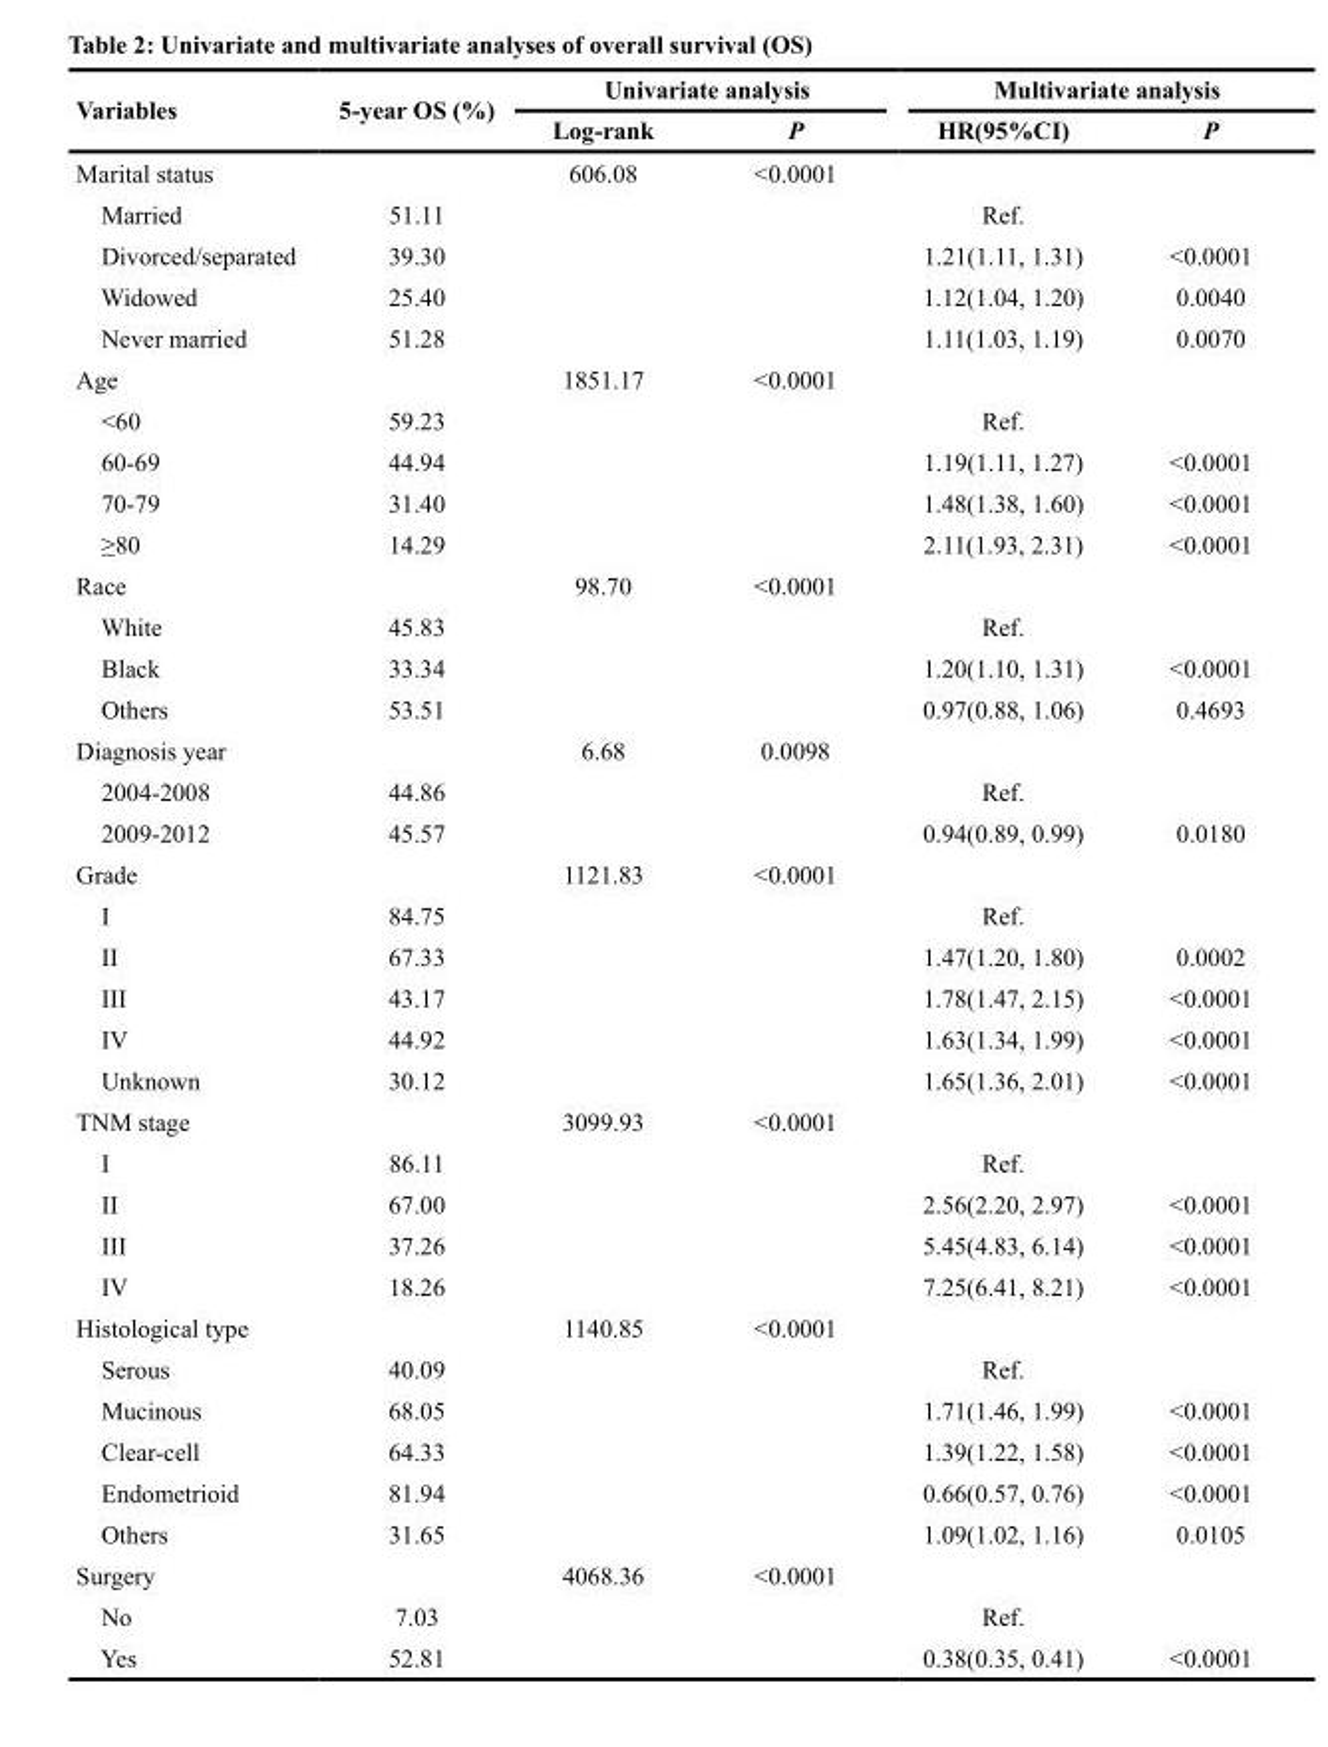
<table><thead><tr><td rowspan="2">Variables</td><td rowspan="2">5-year OS (%)</td><td colspan="2">Univariate analysis</td><td colspan="2">Multivariate analysis</td></tr><tr><td>Log-rank</td><td>P</td><td>HR(95%CI)</td><td>P</td></tr></thead><tbody><tr><td>Marital status</td><td></td><td>606.08</td><td>&lt;0.0001</td><td></td><td></td></tr><tr><td>Married</td><td>51.11</td><td></td><td></td><td>Ref.</td><td></td></tr><tr><td>Divorced/separated</td><td>39.30</td><td></td><td></td><td>1.21(1.11, 1.31)</td><td>&lt;0.0001</td></tr><tr><td>Widowed</td><td>25.40</td><td></td><td></td><td>1.12(1.04, 1.20)</td><td>0.0040</td></tr><tr><td>Never married</td><td>51.28</td><td></td><td></td><td>1.11(1.03, 1.19)</td><td>0.0070</td></tr><tr><td>Age</td><td></td><td>1851.17</td><td>&lt;0.0001</td><td></td><td></td></tr><tr><td>&lt;60</td><td>59.23</td><td></td><td></td><td>Ref.</td><td></td></tr><tr><td>60-69</td><td>44.94</td><td></td><td></td><td>1.19(1.11, 1.27)</td><td>&lt;0.0001</td></tr><tr><td>70-79</td><td>31.40</td><td></td><td></td><td>1.48(1.38, 1.60)</td><td>&lt;0.0001</td></tr><tr><td>≥80</td><td>14.29</td><td></td><td></td><td>2.11(1.93, 2.31)</td><td>&lt;0.0001</td></tr><tr><td>Race</td><td></td><td>98.70</td><td>&lt;0.0001</td><td></td><td></td></tr><tr><td>White</td><td>45.83</td><td></td><td></td><td>Ref.</td><td></td></tr><tr><td>Black</td><td>33.34</td><td></td><td></td><td>1.20(1.10, 1.31)</td><td>&lt;0.0001</td></tr><tr><td>Others</td><td>53.51</td><td></td><td></td><td>0.97(0.88, 1.06)</td><td>0.4693</td></tr><tr><td>Diagnosis year</td><td></td><td>6.68</td><td>0.0098</td><td></td><td></td></tr><tr><td>2004-2008</td><td>44.86</td><td></td><td></td><td>Ref.</td><td></td></tr><tr><td>2009-2012</td><td>45.57</td><td></td><td></td><td>0.94(0.89, 0.99)</td><td>0.0180</td></tr><tr><td>Grade</td><td></td><td>1121.83</td><td>&lt;0.0001</td><td></td><td></td></tr><tr><td>I</td><td>84.75</td><td></td><td></td><td>Ref.</td><td></td></tr><tr><td>II</td><td>67.33</td><td></td><td></td><td>1.47(1.20, 1.80)</td><td>0.0002</td></tr><tr><td>III</td><td>43.17</td><td></td><td></td><td>1.78(1.47, 2.15)</td><td>&lt;0.0001</td></tr><tr><td>IV</td><td>44.92</td><td></td><td></td><td>1.63(1.34, 1.99)</td><td>&lt;0.0001</td></tr><tr><td>Unknown</td><td>30.12</td><td></td><td></td><td>1.65(1.36, 2.01)</td><td>&lt;0.0001</td></tr><tr><td>TNM stage</td><td></td><td>3099.93</td><td>&lt;0.0001</td><td></td><td></td></tr><tr><td>I</td><td>86.11</td><td></td><td></td><td>Ref.</td><td></td></tr><tr><td>II</td><td>67.00</td><td></td><td></td><td>2.56(2.20, 2.97)</td><td>&lt;0.0001</td></tr><tr><td>III</td><td>37.26</td><td></td><td></td><td>5.45(4.83, 6.14)</td><td>&lt;0.0001</td></tr><tr><td>IV</td><td>18.26</td><td></td><td></td><td>7.25(6.41, 8.21)</td><td>&lt;0.0001</td></tr><tr><td>Histological type</td><td></td><td>1140.85</td><td>&lt;0.0001</td><td></td><td></td></tr><tr><td>Serous</td><td>40.09</td><td></td><td></td><td>Ref.</td><td></td></tr><tr><td>Mucinous</td><td>68.05</td><td></td><td></td><td>1.71(1.46, 1.99)</td><td>&lt;0.0001</td></tr><tr><td>Clear-cell</td><td>64.33</td><td></td><td></td><td>1.39(1.22, 1.58)</td><td>&lt;0.0001</td></tr><tr><td>Endometrioid</td><td>81.94</td><td></td><td></td><td>0.66(0.57, 0.76)</td><td>&lt;0.0001</td></tr><tr><td>Others</td><td>31.65</td><td></td><td></td><td>1.09(1.02, 1.16)</td><td>0.0105</td></tr><tr><td>Surgery</td><td></td><td>4068.36</td><td>&lt;0.0001</td><td></td><td></td></tr><tr><td>No</td><td>7.03</td><td></td><td></td><td>Ref.</td><td></td></tr><tr><td>Yes</td><td>52.81</td><td></td><td></td><td>0.38(0.35, 0.41)</td><td>&lt;0.0001</td></tr></tbody></table>